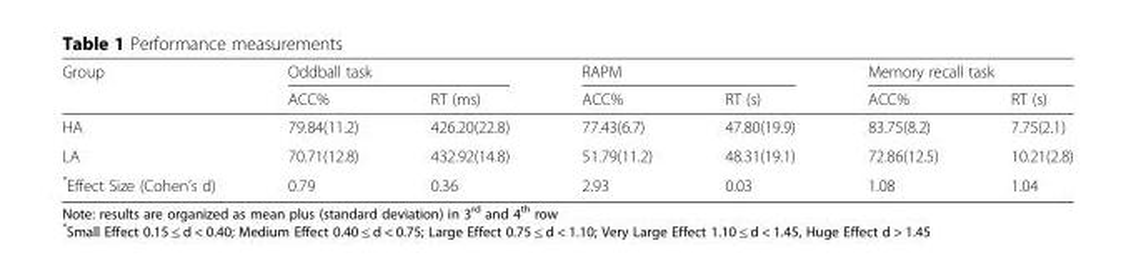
<table><thead><tr><td rowspan="2">Group</td><td colspan="2">Oddball task</td><td colspan="2">RAPM</td><td colspan="2">Memory recall task</td></tr><tr><td>ACC%</td><td>RT (ms)</td><td>ACC%</td><td>RT (s)</td><td>ACC%</td><td>RT (s)</td></tr></thead><tbody><tr><td>HA</td><td>79.84(11.2)</td><td>426.20(22.8)</td><td>77.43(6.7)</td><td>47.80(19.9)</td><td>83.75(8.2)</td><td>7.75(2.1)</td></tr><tr><td>LA</td><td>70.71(12.8)</td><td>432.92(14.8)</td><td>51.79(11.2)</td><td>48.31(19.1)</td><td>72.86(12.5)</td><td>10.21(2.8)</td></tr><tr><td>*Effect Size (Cohen’s d)</td><td>0.79</td><td>0.36</td><td>2.93</td><td>0.03</td><td>1.08</td><td>1.04</td></tr></tbody></table>